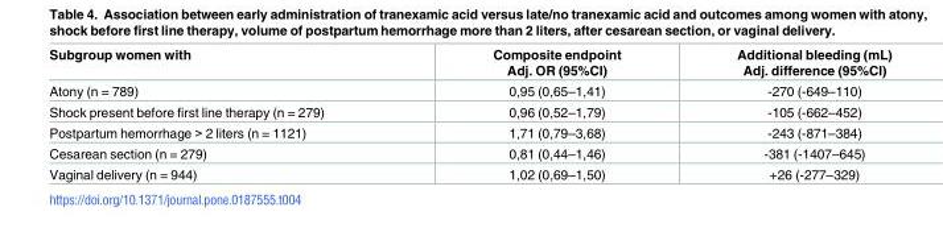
<table><thead><tr><td>Subgroup women with</td><td>Composite endpoint Adj. OR (95%CI)</td><td>Additional bleeding (mL) Adj. difference (95%CI)</td></tr></thead><tbody><tr><td>Atony (n = 789)</td><td>0,95 (0,65–1,41)</td><td>-270 (-649–110)</td></tr><tr><td>Shock present before first line therapy (n = 279)</td><td>0,96 (0,52–1,79)</td><td>-105 (-662–452)</td></tr><tr><td>Postpartum hemorrhage &gt; 2 liters (n = 1121)</td><td>1,71 (0,79–3,68)</td><td>-243 (-871–384)</td></tr><tr><td>Cesarean section (n = 279)</td><td>0,81 (0,44–1,46)</td><td>-381 (-1407–645)</td></tr><tr><td>Vaginal delivery (n = 944)</td><td>1,02 (0,69–1,50)</td><td>+26 (-277–329)</td></tr></tbody></table>